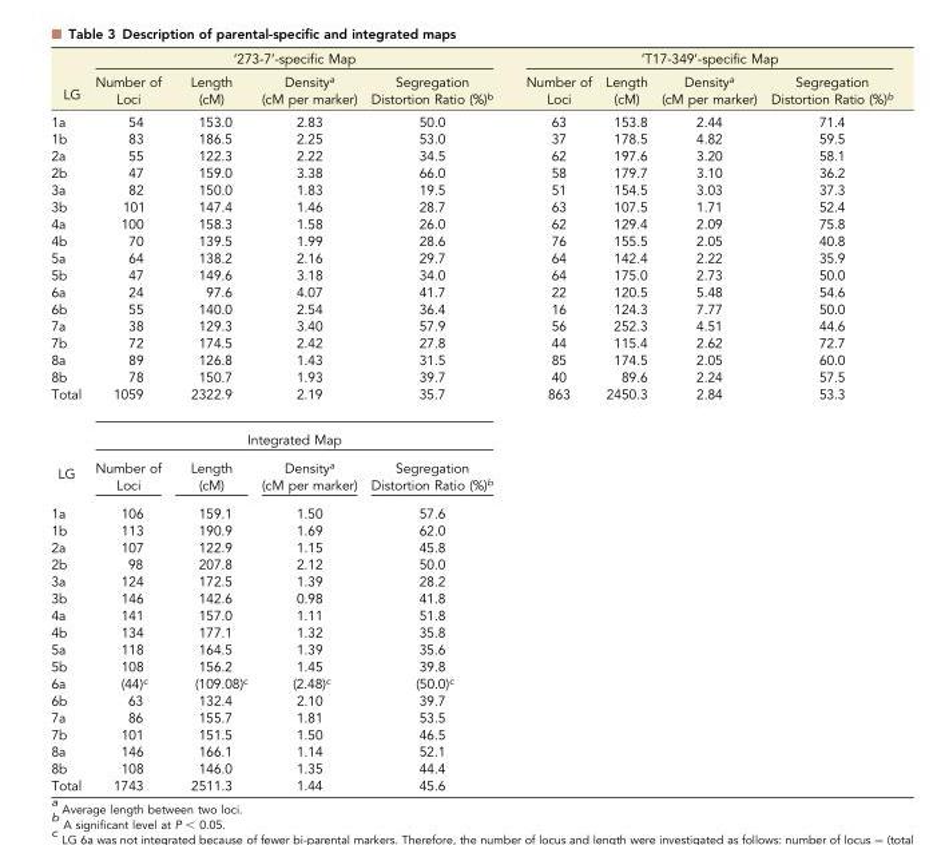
<table><thead><tr><td rowspan="2">LG</td><td colspan="4">‘273-7’-specific Map</td><td colspan="4">‘T17-349’-specific Map</td></tr><tr><td>Number of Loci</td><td>Length (cM)</td><td>Density<sup>a</sup> (cM per marker)</td><td>Segregation Distortion Ratio (%)<sup>b</sup></td><td>Number of Loci</td><td>Length (cM)</td><td>Density<sup>a</sup> (cM per marker)</td><td>Segregation Distortion Ratio (%)<sup>b</sup></td></tr></thead><tbody><tr><td>1a</td><td>54</td><td>153.0</td><td>2.83</td><td>50.0</td><td>63</td><td>153.8</td><td>2.44</td><td>71.4</td></tr><tr><td>1b</td><td>83</td><td>186.5</td><td>2.25</td><td>53.0</td><td>37</td><td>178.5</td><td>4.82</td><td>59.5</td></tr><tr><td>2a</td><td>55</td><td>122.3</td><td>2.22</td><td>34.5</td><td>62</td><td>197.6</td><td>3.20</td><td>58.1</td></tr><tr><td>2b</td><td>47</td><td>159.0</td><td>3.38</td><td>66.0</td><td>58</td><td>179.7</td><td>3.10</td><td>36.2</td></tr><tr><td>3a</td><td>82</td><td>150.0</td><td>1.83</td><td>19.5</td><td>51</td><td>154.5</td><td>3.03</td><td>37.3</td></tr><tr><td>3b</td><td>101</td><td>147.4</td><td>1.46</td><td>28.7</td><td>63</td><td>107.5</td><td>1.71</td><td>52.4</td></tr><tr><td>4a</td><td>100</td><td>158.3</td><td>1.58</td><td>26.0</td><td>62</td><td>129.4</td><td>2.09</td><td>75.8</td></tr><tr><td>4b</td><td>70</td><td>139.5</td><td>1.99</td><td>28.6</td><td>76</td><td>155.5</td><td>2.05</td><td>40.8</td></tr><tr><td>5a</td><td>64</td><td>138.2</td><td>2.16</td><td>29.7</td><td>64</td><td>142.4</td><td>2.22</td><td>35.9</td></tr><tr><td>5b</td><td>47</td><td>149.6</td><td>3.18</td><td>34.0</td><td>64</td><td>175.0</td><td>2.73</td><td>50.0</td></tr><tr><td>6a</td><td>24</td><td>97.6</td><td>4.07</td><td>41.7</td><td>22</td><td>120.5</td><td>5.48</td><td>54.6</td></tr><tr><td>6b</td><td>55</td><td>140.0</td><td>2.54</td><td>36.4</td><td>16</td><td>124.3</td><td>7.77</td><td>50.0</td></tr><tr><td>7a</td><td>38</td><td>129.3</td><td>3.40</td><td>57.9</td><td>56</td><td>252.3</td><td>4.51</td><td>44.6</td></tr><tr><td>7b</td><td>72</td><td>174.5</td><td>2.42</td><td>27.8</td><td>44</td><td>115.4</td><td>2.62</td><td>72.7</td></tr><tr><td>8a</td><td>89</td><td>126.8</td><td>1.43</td><td>31.5</td><td>85</td><td>174.5</td><td>2.05</td><td>60.0</td></tr><tr><td>8b</td><td>78</td><td>150.7</td><td>1.93</td><td>39.7</td><td>40</td><td>89.6</td><td>2.24</td><td>57.5</td></tr><tr><td>Total</td><td>1059</td><td>2322.9</td><td>2.19</td><td>35.7</td><td>863</td><td>2450.3</td><td>2.84</td><td>53.3</td></tr><tr><td rowspan="2">LG</td><td colspan="4">Integrated Map</td><td></td><td></td><td></td><td></td></tr><tr><td>Number of Loci</td><td>Length (cM)</td><td>Density<sup>a</sup> (cM per marker)</td><td>Segregation Distortion Ratio (%)<sup>b</sup></td><td></td><td></td><td></td><td></td></tr><tr><td>1a</td><td>106</td><td>159.1</td><td>1.50</td><td>57.6</td><td></td><td></td><td></td><td></td></tr><tr><td>1b</td><td>113</td><td>190.9</td><td>1.69</td><td>62.0</td><td></td><td></td><td></td><td></td></tr><tr><td>2a</td><td>107</td><td>122.9</td><td>1.15</td><td>45.8</td><td></td><td></td><td></td><td></td></tr><tr><td>2b</td><td>98</td><td>207.8</td><td>2.12</td><td>50.0</td><td></td><td></td><td></td><td></td></tr><tr><td>3a</td><td>124</td><td>172.5</td><td>1.39</td><td>28.2</td><td></td><td></td><td></td><td></td></tr><tr><td>3b</td><td>146</td><td>142.6</td><td>0.98</td><td>41.8</td><td></td><td></td><td></td><td></td></tr><tr><td>4a</td><td>141</td><td>157.0</td><td>1.11</td><td>51.8</td><td></td><td></td><td></td><td></td></tr><tr><td>4b</td><td>134</td><td>177.1</td><td>1.32</td><td>35.8</td><td></td><td></td><td></td><td></td></tr><tr><td>5a</td><td>118</td><td>164.5</td><td>1.39</td><td>35.6</td><td></td><td></td><td></td><td></td></tr><tr><td>5b</td><td>108</td><td>156.2</td><td>1.45</td><td>39.8</td><td></td><td></td><td></td><td></td></tr><tr><td>6a</td><td>(44)<sup>c</sup></td><td>(109.08)<sup>c</sup></td><td>(2.48)<sup>c</sup></td><td>(50.0)<sup>c</sup></td><td></td><td></td><td></td><td></td></tr><tr><td>6b</td><td>63</td><td>132.4</td><td>2.10</td><td>39.7</td><td></td><td></td><td></td><td></td></tr><tr><td>7a</td><td>86</td><td>155.7</td><td>1.81</td><td>53.5</td><td></td><td></td><td></td><td></td></tr><tr><td>7b</td><td>101</td><td>151.5</td><td>1.50</td><td>46.5</td><td></td><td></td><td></td><td></td></tr><tr><td>8a</td><td>146</td><td>166.1</td><td>1.14</td><td>52.1</td><td></td><td></td><td></td><td></td></tr><tr><td>8b</td><td>108</td><td>146.0</td><td>1.35</td><td>44.4</td><td></td><td></td><td></td><td></td></tr><tr><td>Total</td><td>1743</td><td>2511.3</td><td>1.44</td><td>45.6</td><td></td><td></td><td></td><td></td></tr></tbody></table>